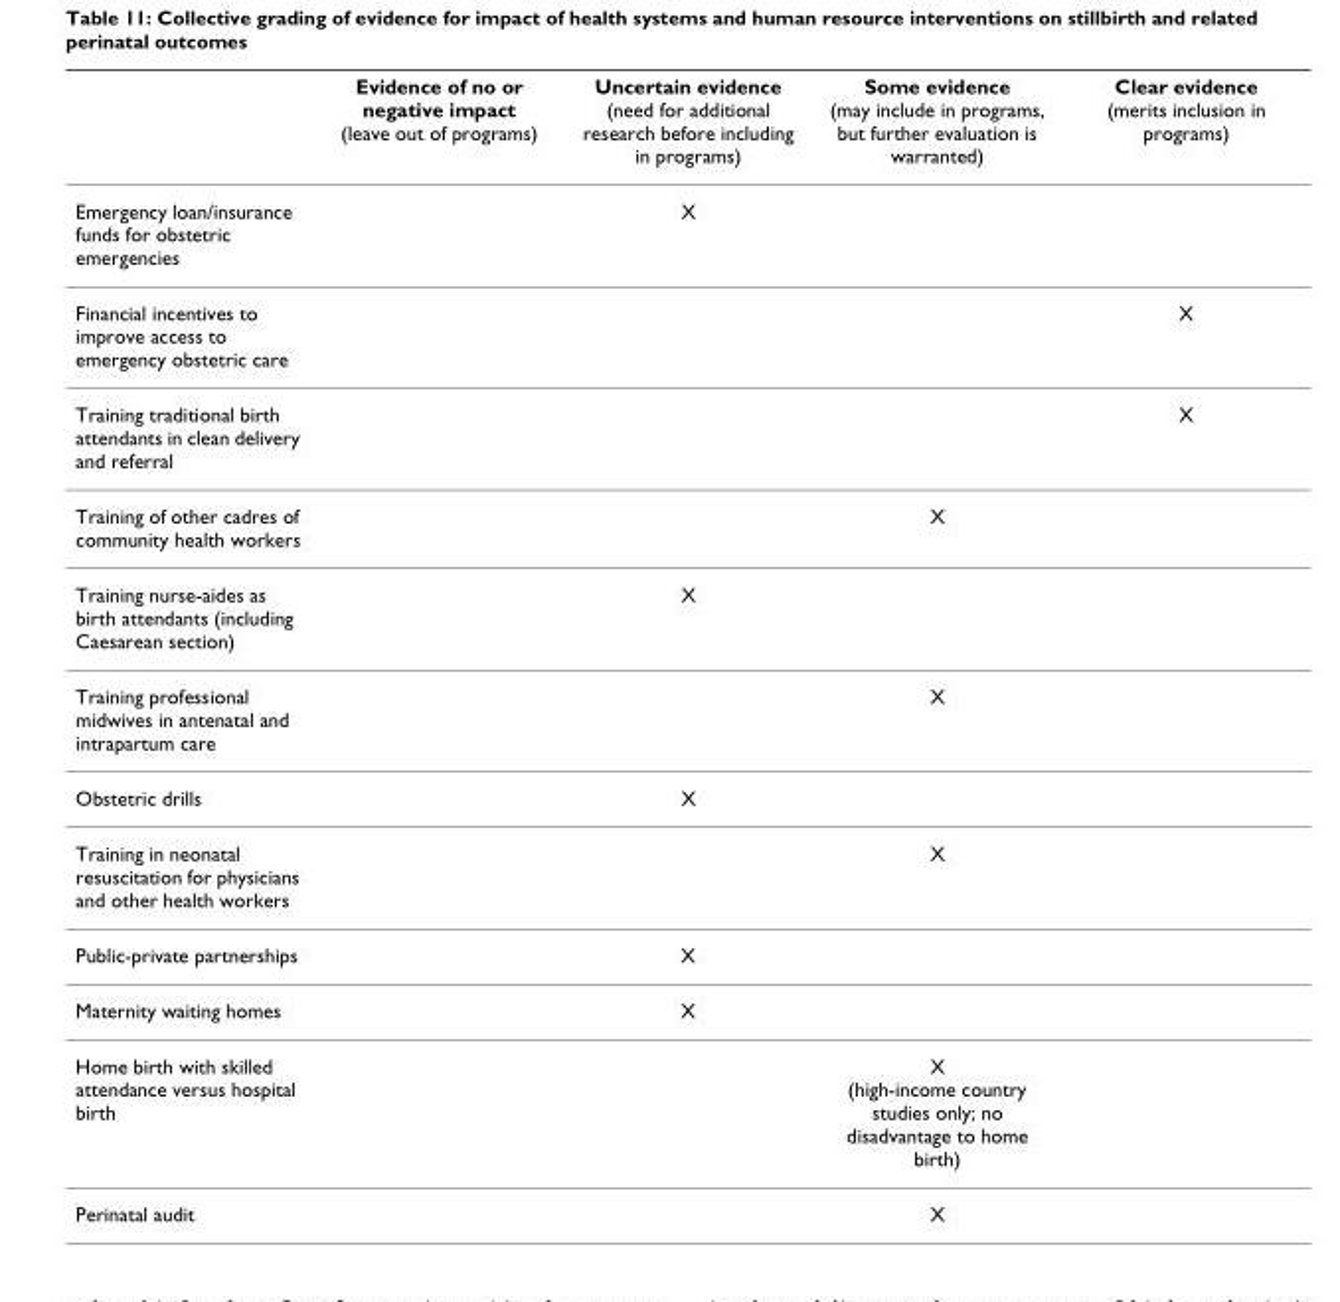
<table><thead><tr><td></td><td>Evidence of no or negative impact (leave out of programs)</td><td>Uncertain evidence (need for additional research before including in programs)</td><td>Some evidence (may include in programs, but further evaluation is warranted)</td><td>Clear evidence (merits inclusion in programs)</td></tr></thead><tbody><tr><td>Emergency loan/insurance funds for obstetric emergencies</td><td></td><td>X</td><td></td><td></td></tr><tr><td>Financial incentives to improve access to emergency obstetric care</td><td></td><td></td><td></td><td>X</td></tr><tr><td>Training traditional birth attendants in clean delivery and referral</td><td></td><td></td><td></td><td>X</td></tr><tr><td>Training of other cadres of community health workers</td><td></td><td></td><td>X</td><td></td></tr><tr><td>Training nurse-aides as birth attendants (including Caesarean section)</td><td></td><td>X</td><td></td><td></td></tr><tr><td>Training professional midwives in antenatal and intrapartum care</td><td></td><td></td><td>X</td><td></td></tr><tr><td>Obstetric drills</td><td></td><td>X</td><td></td><td></td></tr><tr><td>Training in neonatal resuscitation for physicians and other health workers</td><td></td><td></td><td>X</td><td></td></tr><tr><td>Public-private partnerships</td><td></td><td>X</td><td></td><td></td></tr><tr><td>Maternity waiting homes</td><td></td><td>X</td><td></td><td></td></tr><tr><td>Home birth with skilled attendance versus hospital birth</td><td></td><td></td><td>X (high-income country studies only; no disadvantage to home birth)</td><td></td></tr><tr><td>Perinatal audit</td><td></td><td></td><td>X</td><td></td></tr></tbody></table>